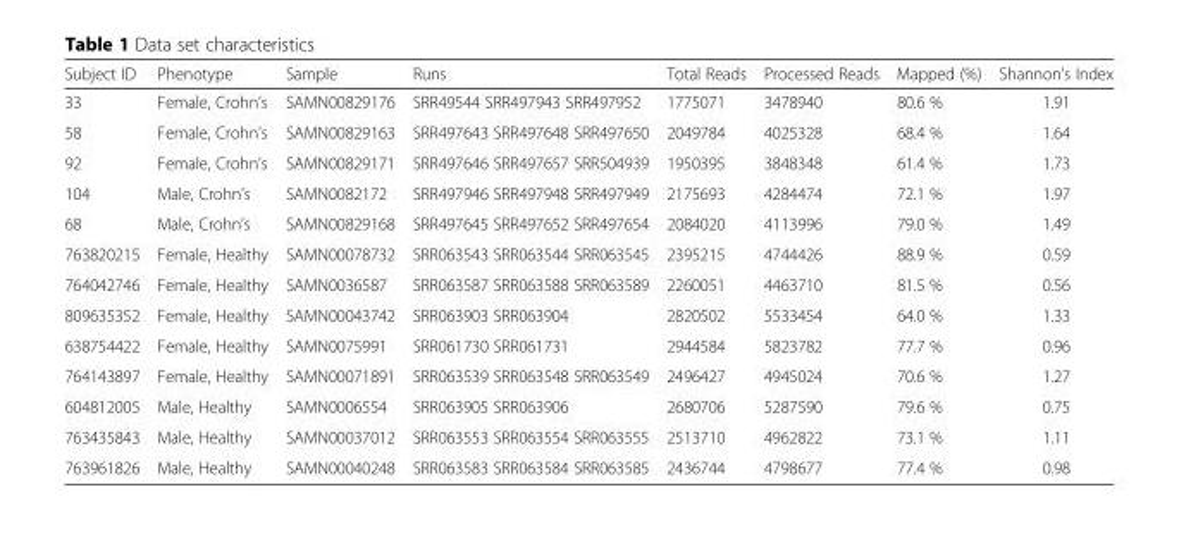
<table><thead><tr><td>Subject ID</td><td>Phenotype</td><td>Sample</td><td>Runs</td><td>Total Reads</td><td>Processed Reads</td><td>Mapped (%)</td><td>Shannon’s Index</td></tr></thead><tbody><tr><td>33</td><td>Female, Crohn’s</td><td>SAMN00829176</td><td>SRR49544 SRR497943 SRR497952</td><td>1775071</td><td>3478940</td><td>80.6 %</td><td>1.91</td></tr><tr><td>58</td><td>Female, Crohn’s</td><td>SAMN00829163</td><td>SRR497643 SRR497648 SRR497650</td><td>2049784</td><td>4025328</td><td>68.4 %</td><td>1.64</td></tr><tr><td>92</td><td>Female, Crohn’s</td><td>SAMN00829171</td><td>SRR497646 SRR497657 SRR504939</td><td>1950395</td><td>3848348</td><td>61.4 %</td><td>1.73</td></tr><tr><td>104</td><td>Male, Crohn’s</td><td>SAMN0082172</td><td>SRR497946 SRR497948 SRR497949</td><td>2175693</td><td>4284474</td><td>72.1 %</td><td>1.97</td></tr><tr><td>68</td><td>Male, Crohn’s</td><td>SAMN00829168</td><td>SRR497645 SRR497652 SRR497654</td><td>2084020</td><td>4113996</td><td>79.0 %</td><td>1.49</td></tr><tr><td>763820215</td><td>Female, Healthy</td><td>SAMN00078732</td><td>SRR063543 SRR063544 SRR063545</td><td>2395215</td><td>4744426</td><td>88.9 %</td><td>0.59</td></tr><tr><td>764042746</td><td>Female, Healthy</td><td>SAMN0036587</td><td>SRR063587 SRR063588 SRR063589</td><td>2260051</td><td>4463710</td><td>81.5 %</td><td>0.56</td></tr><tr><td>809635352</td><td>Female, Healthy</td><td>SAMN00043742</td><td>SRR063903 SRR063904</td><td>2820502</td><td>5533454</td><td>64.0 %</td><td>1.33</td></tr><tr><td>638754422</td><td>Female, Healthy</td><td>SAMN0075991</td><td>SRR061730 SRR061731</td><td>2944584</td><td>5823782</td><td>77.7 %</td><td>0.96</td></tr><tr><td>764143897</td><td>Female, Healthy</td><td>SAMN00071891</td><td>SRR063539 SRR063548 SRR063549</td><td>2496427</td><td>4945024</td><td>70.6 %</td><td>1.27</td></tr><tr><td>604812005</td><td>Male, Healthy</td><td>SAMN0006554</td><td>SRR063905 SRR063906</td><td>2680706</td><td>5287590</td><td>79.6 %</td><td>0.75</td></tr><tr><td>763435843</td><td>Male, Healthy</td><td>SAMN00037012</td><td>SRR063553 SRR063554 SRR063555</td><td>2513710</td><td>4962822</td><td>73.1 %</td><td>1.11</td></tr><tr><td>763961826</td><td>Male, Healthy</td><td>SAMN00040248</td><td>SRR063583 SRR063584 SRR063585</td><td>2436744</td><td>4798677</td><td>77.4 %</td><td>0.98</td></tr></tbody></table>